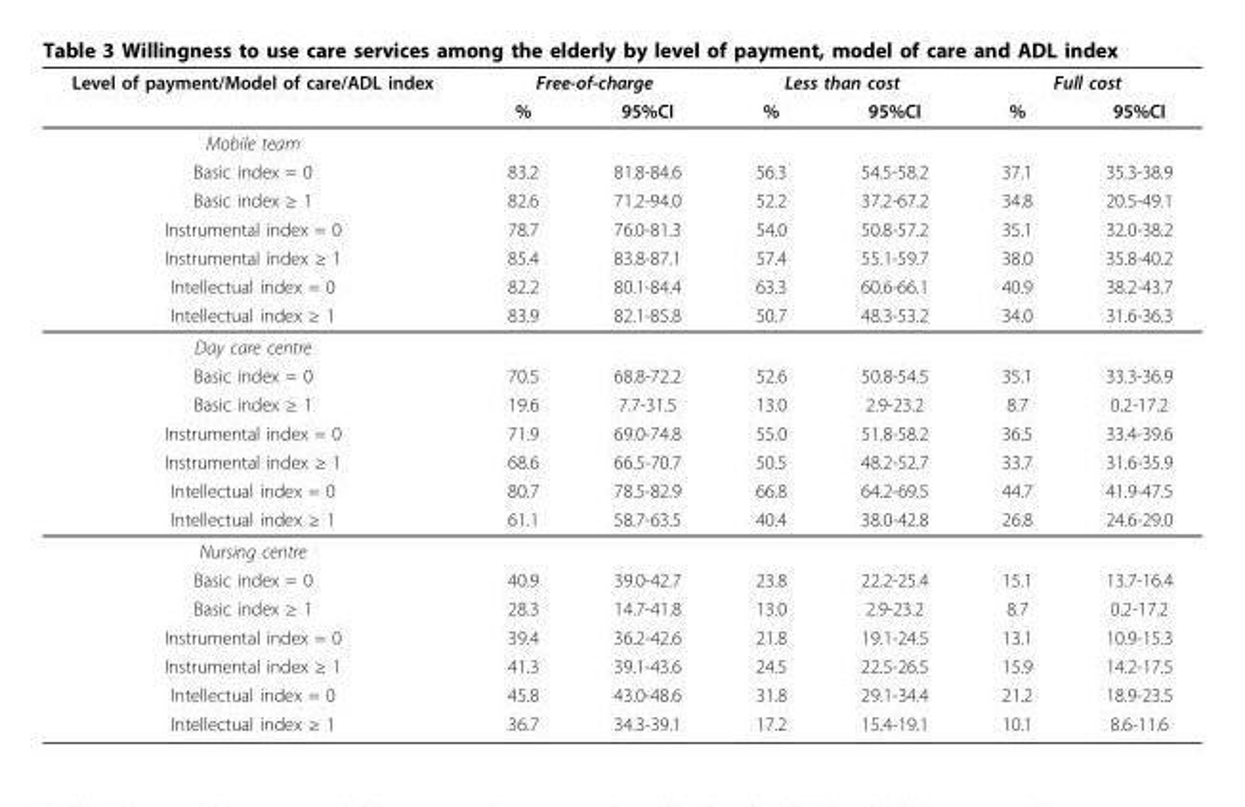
<table><thead><tr><td rowspan="2">Level of payment/Model of care/ADL index</td><td colspan="2">Free-of-charge</td><td colspan="2">Less than cost</td><td colspan="2">Full cost</td></tr><tr><td>%</td><td>95%CI</td><td>%</td><td>95%CI</td><td>%</td><td>95%CI</td></tr></thead><tbody><tr><td colspan="7">Mobile team</td></tr><tr><td>Basic index = 0</td><td>83.2</td><td>81.8-84.6</td><td>56.3</td><td>54.5-58.2</td><td>37.1</td><td>35.3-38.9</td></tr><tr><td>Basic index ≥ 1</td><td>82.6</td><td>71.2-94.0</td><td>52.2</td><td>37.2-67.2</td><td>34.8</td><td>20.5-49.1</td></tr><tr><td>Instrumental index = 0</td><td>78.7</td><td>76.0-81.3</td><td>54.0</td><td>50.8-57.2</td><td>35.1</td><td>32.0-38.2</td></tr><tr><td>Instrumental index ≥ 1</td><td>85.4</td><td>83.8-87.1</td><td>57.4</td><td>55.1-59.7</td><td>38.0</td><td>35.8-40.2</td></tr><tr><td>Intellectual index = 0</td><td>82.2</td><td>80.1-84.4</td><td>63.3</td><td>60.6-66.1</td><td>40.9</td><td>38.2-43.7</td></tr><tr><td>Intellectual index ≥ 1</td><td>83.9</td><td>82.1-85.8</td><td>50.7</td><td>48.3-53.2</td><td>34.0</td><td>31.6-36.3</td></tr><tr><td colspan="7">Day care centre</td></tr><tr><td>Basic index = 0</td><td>70.5</td><td>68.8-72.2</td><td>52.6</td><td>50.8-54.5</td><td>35.1</td><td>33.3-36.9</td></tr><tr><td>Basic index ≥ 1</td><td>19.6</td><td>7.7-31.5</td><td>13.0</td><td>2.9-23.2</td><td>8.7</td><td>0.2-17.2</td></tr><tr><td>Instrumental index = 0</td><td>71.9</td><td>69.0-74.8</td><td>55.0</td><td>51.8-58.2</td><td>36.5</td><td>33.4-39.6</td></tr><tr><td>Instrumental index ≥ 1</td><td>68.6</td><td>66.5-70.7</td><td>50.5</td><td>48.2-52.7</td><td>33.7</td><td>31.6-35.9</td></tr><tr><td>Intellectual index = 0</td><td>80.7</td><td>78.5-82.9</td><td>66.8</td><td>64.2-69.5</td><td>44.7</td><td>41.9-47.5</td></tr><tr><td>Intellectual index ≥ 1</td><td>61.1</td><td>58.7-63.5</td><td>40.4</td><td>38.0-42.8</td><td>26.8</td><td>24.6-29.0</td></tr><tr><td colspan="7">Nursing centre</td></tr><tr><td>Basic index = 0</td><td>40.9</td><td>39.0-42.7</td><td>23.8</td><td>22.2-25.4</td><td>15.1</td><td>13.7-16.4</td></tr><tr><td>Basic index ≥ 1</td><td>28.3</td><td>14.7-41.8</td><td>13.0</td><td>2.9-23.2</td><td>8.7</td><td>0.2-17.2</td></tr><tr><td>Instrumental index = 0</td><td>39.4</td><td>36.2-42.6</td><td>21.8</td><td>19.1-24.5</td><td>13.1</td><td>10.9-15.3</td></tr><tr><td>Instrumental index ≥ 1</td><td>41.3</td><td>39.1-43.6</td><td>24.5</td><td>22.5-26.5</td><td>15.9</td><td>14.2-17.5</td></tr><tr><td>Intellectual index = 0</td><td>45.8</td><td>43.0-48.6</td><td>31.8</td><td>29.1-34.4</td><td>21.2</td><td>18.9-23.5</td></tr><tr><td>Intellectual index ≥ 1</td><td>36.7</td><td>34.3-39.1</td><td>17.2</td><td>15.4-19.1</td><td>10.1</td><td>8.6-11.6</td></tr></tbody></table>